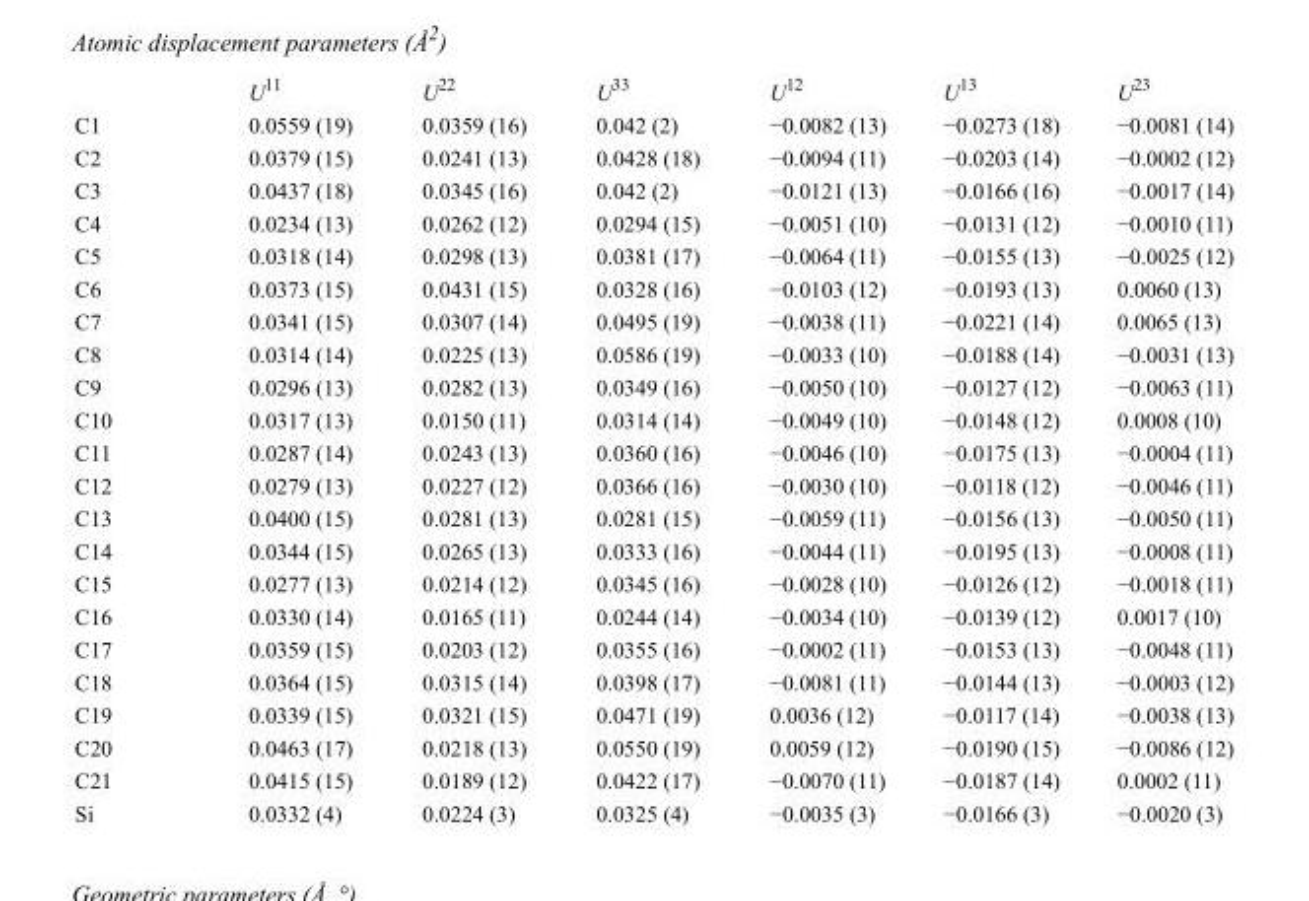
<table><thead><tr><td></td><td>U<sup>11</sup></td><td>U<sup>22</sup></td><td>U<sup>33</sup></td><td>U<sup>12</sup></td><td>U<sup>13</sup></td><td>U<sup>23</sup></td></tr></thead><tbody><tr><td>C1</td><td>0.0559 (19)</td><td>0.0359 (16)</td><td>0.042 (2)</td><td>−0.0082 (13)</td><td>−0.0273 (18)</td><td>−0.0081 (14)</td></tr><tr><td>C2</td><td>0.0379 (15)</td><td>0.0241 (13)</td><td>0.0428 (18)</td><td>−0.0094 (11)</td><td>−0.0203 (14)</td><td>−0.0002 (12)</td></tr><tr><td>C3</td><td>0.0437 (18)</td><td>0.0345 (16)</td><td>0.042 (2)</td><td>−0.0121 (13)</td><td>−0.0166 (16)</td><td>−0.0017 (14)</td></tr><tr><td>C4</td><td>0.0234 (13)</td><td>0.0262 (12)</td><td>0.0294 (15)</td><td>−0.0051 (10)</td><td>−0.0131 (12)</td><td>−0.0010 (11)</td></tr><tr><td>C5</td><td>0.0318 (14)</td><td>0.0298 (13)</td><td>0.0381 (17)</td><td>−0.0064 (11)</td><td>−0.0155 (13)</td><td>−0.0025 (12)</td></tr><tr><td>C6</td><td>0.0373 (15)</td><td>0.0431 (15)</td><td>0.0328 (16)</td><td>−0.0103 (12)</td><td>−0.0193 (13)</td><td>0.0060 (13)</td></tr><tr><td>C7</td><td>0.0341 (15)</td><td>0.0307 (14)</td><td>0.0495 (19)</td><td>−0.0038 (11)</td><td>−0.0221 (14)</td><td>0.0065 (13)</td></tr><tr><td>C8</td><td>0.0314 (14)</td><td>0.0225 (13)</td><td>0.0586 (19)</td><td>−0.0033 (10)</td><td>−0.0188 (14)</td><td>−0.0031 (13)</td></tr><tr><td>C9</td><td>0.0296 (13)</td><td>0.0282 (13)</td><td>0.0349 (16)</td><td>−0.0050 (10)</td><td>−0.0127 (12)</td><td>−0.0063 (11)</td></tr><tr><td>C10</td><td>0.0317 (13)</td><td>0.0150 (11)</td><td>0.0314 (14)</td><td>−0.0049 (10)</td><td>−0.0148 (12)</td><td>0.0008 (10)</td></tr><tr><td>C11</td><td>0.0287 (14)</td><td>0.0243 (13)</td><td>0.0360 (16)</td><td>−0.0046 (10)</td><td>−0.0175 (13)</td><td>−0.0004 (11)</td></tr><tr><td>C12</td><td>0.0279 (13)</td><td>0.0227 (12)</td><td>0.0366 (16)</td><td>−0.0030 (10)</td><td>−0.0118 (12)</td><td>−0.0046 (11)</td></tr><tr><td>C13</td><td>0.0400 (15)</td><td>0.0281 (13)</td><td>0.0281 (15)</td><td>−0.0059 (11)</td><td>−0.0156 (13)</td><td>−0.0050 (11)</td></tr><tr><td>C14</td><td>0.0344 (15)</td><td>0.0265 (13)</td><td>0.0333 (16)</td><td>−0.0044 (11)</td><td>−0.0195 (13)</td><td>−0.0008 (11)</td></tr><tr><td>C15</td><td>0.0277 (13)</td><td>0.0214 (12)</td><td>0.0345 (16)</td><td>−0.0028 (10)</td><td>−0.0126 (12)</td><td>−0.0018 (11)</td></tr><tr><td>C16</td><td>0.0330 (14)</td><td>0.0165 (11)</td><td>0.0244 (14)</td><td>−0.0034 (10)</td><td>−0.0139 (12)</td><td>0.0017 (10)</td></tr><tr><td>C17</td><td>0.0359 (15)</td><td>0.0203 (12)</td><td>0.0355 (16)</td><td>−0.0002 (11)</td><td>−0.0153 (13)</td><td>−0.0048 (11)</td></tr><tr><td>C18</td><td>0.0364 (15)</td><td>0.0315 (14)</td><td>0.0398 (17)</td><td>−0.0081 (11)</td><td>−0.0144 (13)</td><td>−0.0003 (12)</td></tr><tr><td>C19</td><td>0.0339 (15)</td><td>0.0321 (15)</td><td>0.0471 (19)</td><td>0.0036 (12)</td><td>−0.0117 (14)</td><td>−0.0038 (13)</td></tr><tr><td>C20</td><td>0.0463 (17)</td><td>0.0218 (13)</td><td>0.0550 (19)</td><td>0.0059 (12)</td><td>−0.0190 (15)</td><td>−0.0086 (12)</td></tr><tr><td>C21</td><td>0.0415 (15)</td><td>0.0189 (12)</td><td>0.0422 (17)</td><td>−0.0070 (11)</td><td>−0.0187 (14)</td><td>0.0002 (11)</td></tr><tr><td>Si</td><td>0.0332 (4)</td><td>0.0224 (3)</td><td>0.0325 (4)</td><td>−0.0035 (3)</td><td>−0.0166 (3)</td><td>−0.0020 (3)</td></tr></tbody></table>